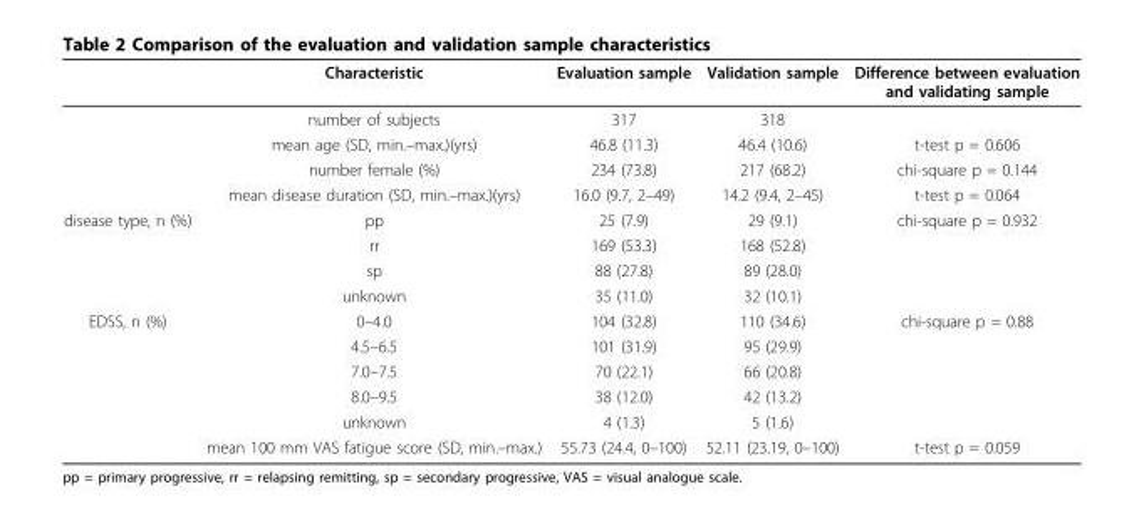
<table><thead><tr><td></td><td>Characteristic</td><td>Evaluation sample</td><td>Validation sample</td><td>Difference between evaluation and validating sample</td></tr></thead><tbody><tr><td></td><td>number of subjects</td><td>317</td><td>318</td><td></td></tr><tr><td></td><td>mean age (SD, min.–max.)(yrs)</td><td>46.8 (11.3)</td><td>46.4 (10.6)</td><td>t-test p = 0.606</td></tr><tr><td></td><td>number female (%)</td><td>234 (73.8)</td><td>217 (68.2)</td><td>chi-square p = 0.144</td></tr><tr><td></td><td>mean disease duration (SD, min.–max.)(yrs)</td><td>16.0 (9.7, 2–49)</td><td>14.2 (9.4, 2–45)</td><td>t-test p = 0.064</td></tr><tr><td rowspan="4">disease type, n (%)</td><td>pp</td><td>25 (7.9)</td><td>29 (9.1)</td><td>chi-square p = 0.932</td></tr><tr><td>rr</td><td>169 (53.3)</td><td>168 (52.8)</td><td></td></tr><tr><td>sp</td><td>88 (27.8)</td><td>89 (28.0)</td><td></td></tr><tr><td>unknown</td><td>35 (11.0)</td><td>32 (10.1)</td><td></td></tr><tr><td rowspan="6">EDSS, n (%)</td><td>0–4.0</td><td>104 (32.8)</td><td>110 (34.6)</td><td>chi-square p = 0.88</td></tr><tr><td>4.5–6.5</td><td>101 (31.9)</td><td>95 (29.9)</td><td></td></tr><tr><td>7.0–7.5</td><td>70 (22.1)</td><td>66 (20.8)</td><td></td></tr><tr><td>8.0–9.5</td><td>38 (12.0)</td><td>42 (13.2)</td><td></td></tr><tr><td>unknown</td><td>4 (1.3)</td><td>5 (1.6)</td><td></td></tr><tr><td>mean 100 mm VAS fatigue score (SD, min.–max.)</td><td>55.73 (24.4, 0–100)</td><td>52.11 (23.19, 0–100)</td><td>t-test p = 0.059</td></tr></tbody></table>